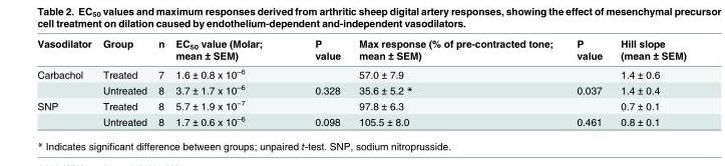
<table><thead><tr><td>Vasodilator</td><td>Group</td><td>n</td><td>EC<sub>50</sub> value (Molar; mean ± SEM)</td><td>P value</td><td>Max response (% of pre-contracted tone; mean ± SEM)</td><td>P value</td><td>Hill slope (mean ± SEM)</td></tr></thead><tbody><tr><td rowspan="2">Carbachol</td><td>Treated</td><td>7</td><td>1.6 ± 0.8 x 10<sup>–6</sup></td><td></td><td>57.0 ± 7.9</td><td></td><td>1.4 ± 0.6</td></tr><tr><td>Untreated</td><td>8</td><td>3.7 ± 1.7 x 10<sup>–6</sup></td><td>0.328</td><td>35.6 ± 5.2 *</td><td>0.037</td><td>1.4 ± 0.4</td></tr><tr><td rowspan="2">SNP</td><td>Treated</td><td>8</td><td>5.7 ± 1.9 x 10<sup>–7</sup></td><td></td><td>97.8 ± 6.3</td><td></td><td>0.7 ± 0.1</td></tr><tr><td>Untreated</td><td>8</td><td>1.7 ± 0.6 x 10<sup>–6</sup></td><td>0.098</td><td>105.5 ± 8.0</td><td>0.461</td><td>0.8 ± 0.1</td></tr></tbody></table>